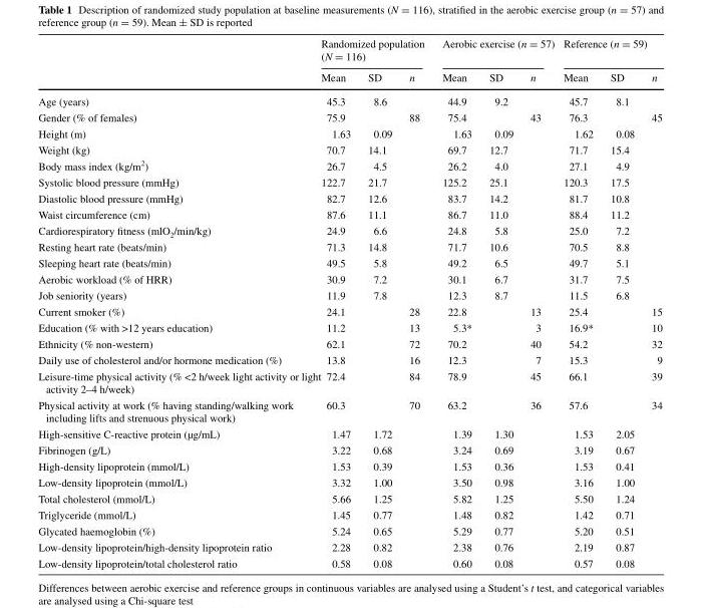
<table><thead><tr><td rowspan="2"></td><td colspan="3">Randomized population (N = 116)</td><td colspan="3">Aerobic exercise (n = 57)</td><td colspan="3">Reference (n = 59)</td></tr><tr><td>Mean</td><td>SD</td><td>n</td><td>Mean</td><td>SD</td><td>n</td><td>Mean</td><td>SD</td><td>n</td></tr></thead><tbody><tr><td>Age (years)</td><td>45.3</td><td>8.6</td><td></td><td>44.9</td><td>9.2</td><td></td><td>45.7</td><td>8.1</td><td></td></tr><tr><td>Gender (% of females)</td><td>75.9</td><td></td><td>88</td><td>75.4</td><td></td><td>43</td><td>76.3</td><td></td><td>45</td></tr><tr><td>Height (m)</td><td>1.63</td><td>0.09</td><td></td><td>1.63</td><td>0.09</td><td></td><td>1.62</td><td>0.08</td><td></td></tr><tr><td>Weight (kg)</td><td>70.7</td><td>14.1</td><td></td><td>69.7</td><td>12.7</td><td></td><td>71.7</td><td>15.4</td><td></td></tr><tr><td>Body mass index (kg/m<sup>2</sup>)</td><td>26.7</td><td>4.5</td><td></td><td>26.2</td><td>4.0</td><td></td><td>27.1</td><td>4.9</td><td></td></tr><tr><td>Systolic blood pressure (mmHg)</td><td>122.7</td><td>21.7</td><td></td><td>125.2</td><td>25.1</td><td></td><td>120.3</td><td>17.5</td><td></td></tr><tr><td>Diastolic blood pressure (mmHg)</td><td>82.7</td><td>12.6</td><td></td><td>83.7</td><td>14.2</td><td></td><td>81.7</td><td>10.8</td><td></td></tr><tr><td>Waist circumference (cm)</td><td>87.6</td><td>11.1</td><td></td><td>86.7</td><td>11.0</td><td></td><td>88.4</td><td>11.2</td><td></td></tr><tr><td>Cardiorespiratory fitness (mlO<sub>2</sub>/min/kg)</td><td>24.9</td><td>6.6</td><td></td><td>24.8</td><td>5.8</td><td></td><td>25.0</td><td>7.2</td><td></td></tr><tr><td>Resting heart rate (beats/min)</td><td>71.3</td><td>14.8</td><td></td><td>71.7</td><td>10.6</td><td></td><td>70.5</td><td>8.8</td><td></td></tr><tr><td>Sleeping heart rate (beats/min)</td><td>49.5</td><td>5.8</td><td></td><td>49.2</td><td>6.5</td><td></td><td>49.7</td><td>5.1</td><td></td></tr><tr><td>Aerobic workload (% of HRR)</td><td>30.9</td><td>7.2</td><td></td><td>30.1</td><td>6.7</td><td></td><td>31.7</td><td>7.5</td><td></td></tr><tr><td>Job seniority (years)</td><td>11.9</td><td>7.8</td><td></td><td>12.3</td><td>8.7</td><td></td><td>11.5</td><td>6.8</td><td></td></tr><tr><td>Current smoker (%)</td><td>24.1</td><td></td><td>28</td><td>22.8</td><td></td><td>13</td><td>25.4</td><td></td><td>15</td></tr><tr><td>Education (% with &gt;12 years education)</td><td>11.2</td><td></td><td>13</td><td>5.3*</td><td></td><td>3</td><td>16.9*</td><td></td><td>10</td></tr><tr><td>Ethnicity (% non-western)</td><td>62.1</td><td></td><td>72</td><td>70.2</td><td></td><td>40</td><td>54.2</td><td></td><td>32</td></tr><tr><td>Daily use of cholesterol and/or hormone medication (%)</td><td>13.8</td><td></td><td>16</td><td>12.3</td><td></td><td>7</td><td>15.3</td><td></td><td>9</td></tr><tr><td>Leisure-time physical activity (% &lt;2 h/week light activity or light activity 2–4 h/week)</td><td>72.4</td><td></td><td>84</td><td>78.9</td><td></td><td>45</td><td>66.1</td><td></td><td>39</td></tr><tr><td>Physical activity at work (% having standing/walking work including lifts and strenuous physical work)</td><td>60.3</td><td></td><td>70</td><td>63.2</td><td></td><td>36</td><td>57.6</td><td></td><td>34</td></tr><tr><td>High-sensitive C-reactive protein (µg/mL)</td><td>1.47</td><td>1.72</td><td></td><td>1.39</td><td>1.30</td><td></td><td>1.53</td><td>2.05</td><td></td></tr><tr><td>Fibrinogen (g/L)</td><td>3.22</td><td>0.68</td><td></td><td>3.24</td><td>0.69</td><td></td><td>3.19</td><td>0.67</td><td></td></tr><tr><td>High-density lipoprotein (mmol/L)</td><td>1.53</td><td>0.39</td><td></td><td>1.53</td><td>0.36</td><td></td><td>1.53</td><td>0.41</td><td></td></tr><tr><td>Low-density lipoprotein (mmol/L)</td><td>3.32</td><td>1.00</td><td></td><td>3.50</td><td>0.98</td><td></td><td>3.16</td><td>1.00</td><td></td></tr><tr><td>Total cholesterol (mmol/L)</td><td>5.66</td><td>1.25</td><td></td><td>5.82</td><td>1.25</td><td></td><td>5.50</td><td>1.24</td><td></td></tr><tr><td>Triglyceride (mmol/L)</td><td>1.45</td><td>0.77</td><td></td><td>1.48</td><td>0.82</td><td></td><td>1.42</td><td>0.71</td><td></td></tr><tr><td>Glycated haemoglobin (%)</td><td>5.24</td><td>0.65</td><td></td><td>5.29</td><td>0.77</td><td></td><td>5.20</td><td>0.51</td><td></td></tr><tr><td>Low-density lipoprotein/high-density lipoprotein ratio</td><td>2.28</td><td>0.82</td><td></td><td>2.38</td><td>0.76</td><td></td><td>2.19</td><td>0.87</td><td></td></tr><tr><td>Low-density lipoprotein/total cholesterol ratio</td><td>0.58</td><td>0.08</td><td></td><td>0.60</td><td>0.08</td><td></td><td>0.57</td><td>0.08</td><td></td></tr></tbody></table>